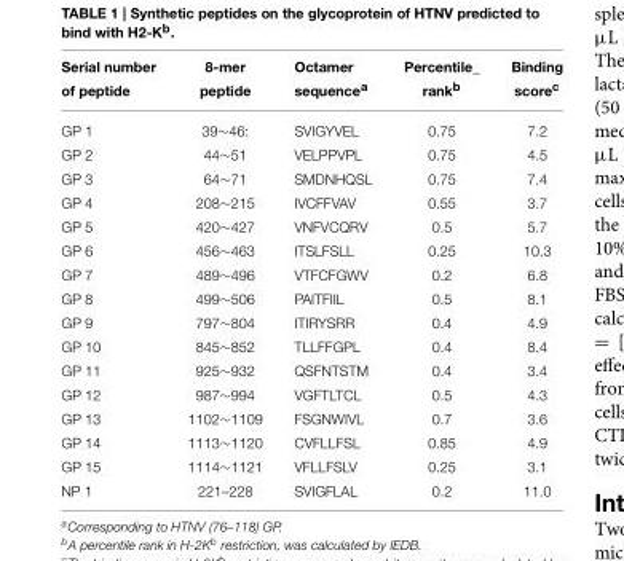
<table><thead><tr><td>Serial number of peptide</td><td>8-mer peptide</td><td>Octamer sequence<sup>a</sup></td><td>Percentile_ rank<sup>b</sup></td><td>Binding score<sup>c</sup></td></tr></thead><tbody><tr><td>GP 1</td><td>39∼46:</td><td>SVIGYVEL</td><td>0.75</td><td>7.2</td></tr><tr><td>GP 2</td><td>44∼51</td><td>VELPPVPL</td><td>0.75</td><td>4.5</td></tr><tr><td>GP 3</td><td>64∼71</td><td>SMDNHQSL</td><td>0.75</td><td>7.4</td></tr><tr><td>GP 4</td><td>208∼215</td><td>IVCFFVAV</td><td>0.55</td><td>3.7</td></tr><tr><td>GP 5</td><td>420∼427</td><td>VNFVCQRV</td><td>0.5</td><td>5.7</td></tr><tr><td>GP 6</td><td>456∼463</td><td>ITSLFSLL</td><td>0.25</td><td>10.3</td></tr><tr><td>GP 7</td><td>489∼496</td><td>VTFCFGWV</td><td>0.2</td><td>6.8</td></tr><tr><td>GP 8</td><td>499∼506</td><td>PAITFIIL</td><td>0.5</td><td>8.1</td></tr><tr><td>GP 9</td><td>797∼804</td><td>ITIRYSRR</td><td>0.4</td><td>4.9</td></tr><tr><td>GP 10</td><td>845∼852</td><td>TLLFFGPL</td><td>0.4</td><td>8.4</td></tr><tr><td>GP 11</td><td>925∼932</td><td>QSFNTSTM</td><td>0.4</td><td>3.4</td></tr><tr><td>GP 12</td><td>987∼994</td><td>VGFTLTCL</td><td>0.5</td><td>4.3</td></tr><tr><td>GP 13</td><td>1102∼1109</td><td>FSGNWIVL</td><td>0.7</td><td>3.6</td></tr><tr><td>GP 14</td><td>1113∼1120</td><td>CVFLLFSL</td><td>0.85</td><td>4.9</td></tr><tr><td>GP 15</td><td>1114∼1121</td><td>VFLLFSLV</td><td>0.25</td><td>3.1</td></tr><tr><td>NP 1</td><td>221–228</td><td>SVIGFLAL</td><td>0.2</td><td>11.0</td></tr></tbody></table>